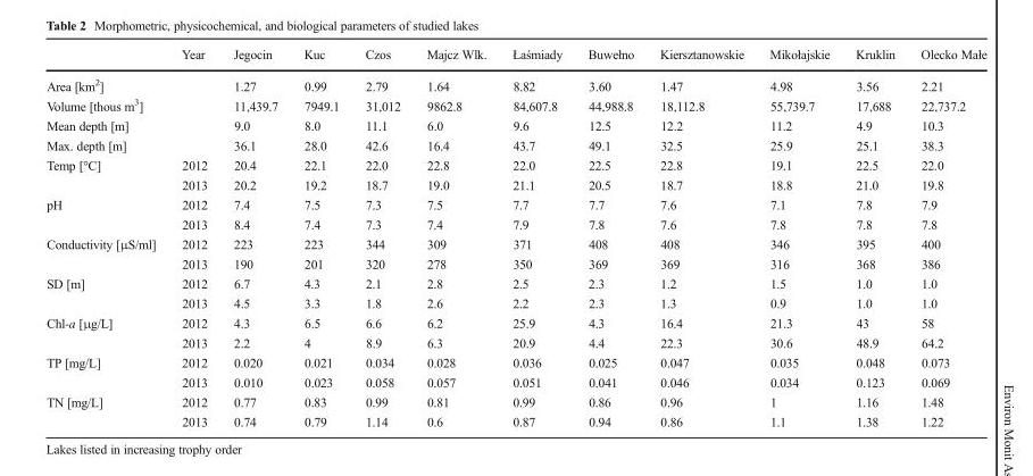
<table><thead><tr><td></td><td>Year</td><td>Jegocin</td><td>Kuc</td><td>Czos</td><td>Majcz Wlk.</td><td>Łaśmiady</td><td>Buwełno</td><td>Kiersztanowskie</td><td>Mikołajskie</td><td>Kruklin</td><td>Olecko Małe</td></tr></thead><tbody><tr><td>Area [km<sup>2</sup>]</td><td></td><td>1.27</td><td>0.99</td><td>2.79</td><td>1.64</td><td>8.82</td><td>3.60</td><td>1.47</td><td>4.98</td><td>3.56</td><td>2.21</td></tr><tr><td>Volume [thous m<sup>3</sup>]</td><td></td><td>11,439.7</td><td>7949.1</td><td>31,012</td><td>9862.8</td><td>84,607.8</td><td>44,988.8</td><td>18,112.8</td><td>55,739.7</td><td>17,688</td><td>22,737.2</td></tr><tr><td>Mean depth [m]</td><td></td><td>9.0</td><td>8.0</td><td>11.1</td><td>6.0</td><td>9.6</td><td>12.5</td><td>12.2</td><td>11.2</td><td>4.9</td><td>10.3</td></tr><tr><td>Max. depth [m]</td><td></td><td>36.1</td><td>28.0</td><td>42.6</td><td>16.4</td><td>43.7</td><td>49.1</td><td>32.5</td><td>25.9</td><td>25.1</td><td>38.3</td></tr><tr><td rowspan="2">Temp [°C]</td><td>2012</td><td>20.4</td><td>22.1</td><td>22.0</td><td>22.8</td><td>22.0</td><td>22.5</td><td>22.8</td><td>19.1</td><td>22.5</td><td>22.0</td></tr><tr><td>2013</td><td>20.2</td><td>19.2</td><td>18.7</td><td>19.0</td><td>21.1</td><td>20.5</td><td>18.7</td><td>18.8</td><td>21.0</td><td>19.8</td></tr><tr><td rowspan="2">pH</td><td>2012</td><td>7.4</td><td>7.5</td><td>7.3</td><td>7.5</td><td>7.7</td><td>7.7</td><td>7.6</td><td>7.1</td><td>7.8</td><td>7.9</td></tr><tr><td>2013</td><td>8.4</td><td>7.4</td><td>7.3</td><td>7.4</td><td>7.9</td><td>7.8</td><td>7.6</td><td>7.8</td><td>7.8</td><td>7.8</td></tr><tr><td rowspan="2">Conductivity [μS/ml]</td><td>2012</td><td>223</td><td>223</td><td>344</td><td>309</td><td>371</td><td>408</td><td>408</td><td>346</td><td>395</td><td>400</td></tr><tr><td>2013</td><td>190</td><td>201</td><td>320</td><td>278</td><td>350</td><td>369</td><td>369</td><td>316</td><td>368</td><td>386</td></tr><tr><td rowspan="2">SD [m]</td><td>2012</td><td>6.7</td><td>4.3</td><td>2.1</td><td>2.8</td><td>2.5</td><td>2.3</td><td>1.2</td><td>1.5</td><td>1.0</td><td>1.0</td></tr><tr><td>2013</td><td>4.5</td><td>3.3</td><td>1.8</td><td>2.6</td><td>2.2</td><td>2.3</td><td>1.3</td><td>0.9</td><td>1.0</td><td>1.0</td></tr><tr><td rowspan="2">Chl-a [μg/L]</td><td>2012</td><td>4.3</td><td>6.5</td><td>6.6</td><td>6.2</td><td>25.9</td><td>4.3</td><td>16.4</td><td>21.3</td><td>43</td><td>58</td></tr><tr><td>2013</td><td>2.2</td><td>4</td><td>8.9</td><td>6.3</td><td>20.9</td><td>4.4</td><td>22.3</td><td>30.6</td><td>48.9</td><td>64.2</td></tr><tr><td rowspan="2">TP [mg/L]</td><td>2012</td><td>0.020</td><td>0.021</td><td>0.034</td><td>0.028</td><td>0.036</td><td>0.025</td><td>0.047</td><td>0.035</td><td>0.048</td><td>0.073</td></tr><tr><td>2013</td><td>0.010</td><td>0.023</td><td>0.058</td><td>0.057</td><td>0.051</td><td>0.041</td><td>0.046</td><td>0.034</td><td>0.123</td><td>0.069</td></tr><tr><td rowspan="2">TN [mg/L]</td><td>2012</td><td>0.77</td><td>0.83</td><td>0.99</td><td>0.81</td><td>0.99</td><td>0.86</td><td>0.96</td><td>1</td><td>1.16</td><td>1.48</td></tr><tr><td>2013</td><td>0.74</td><td>0.79</td><td>1.14</td><td>0.6</td><td>0.87</td><td>0.94</td><td>0.86</td><td>1.1</td><td>1.38</td><td>1.22</td></tr></tbody></table>